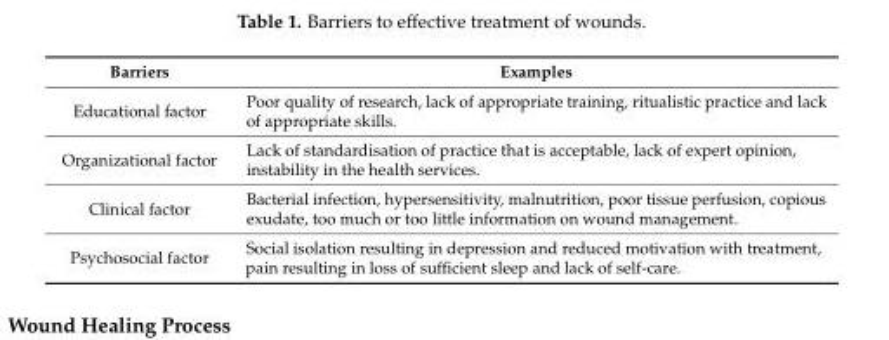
<table><thead><tr><td>Barriers</td><td>Examples</td></tr></thead><tbody><tr><td>Educational factor</td><td>Poor quality of research, lack of appropriate training, ritualistic practice and lack of appropriate skills.</td></tr><tr><td>Organizational factor</td><td>Lack of standardisation of practice that is acceptable, lack of expert opinion, instability in the health services.</td></tr><tr><td>Clinical factor</td><td>Bacterial infection, hypersensitivity, malnutrition, poor tissue perfusion, copious exudate, too much or too little information on wound management.</td></tr><tr><td>Psychosocial factor</td><td>Social isolation resulting in depression and reduced motivation with treatment, pain resulting in loss of sufficient sleep and lack of self-care.</td></tr></tbody></table>